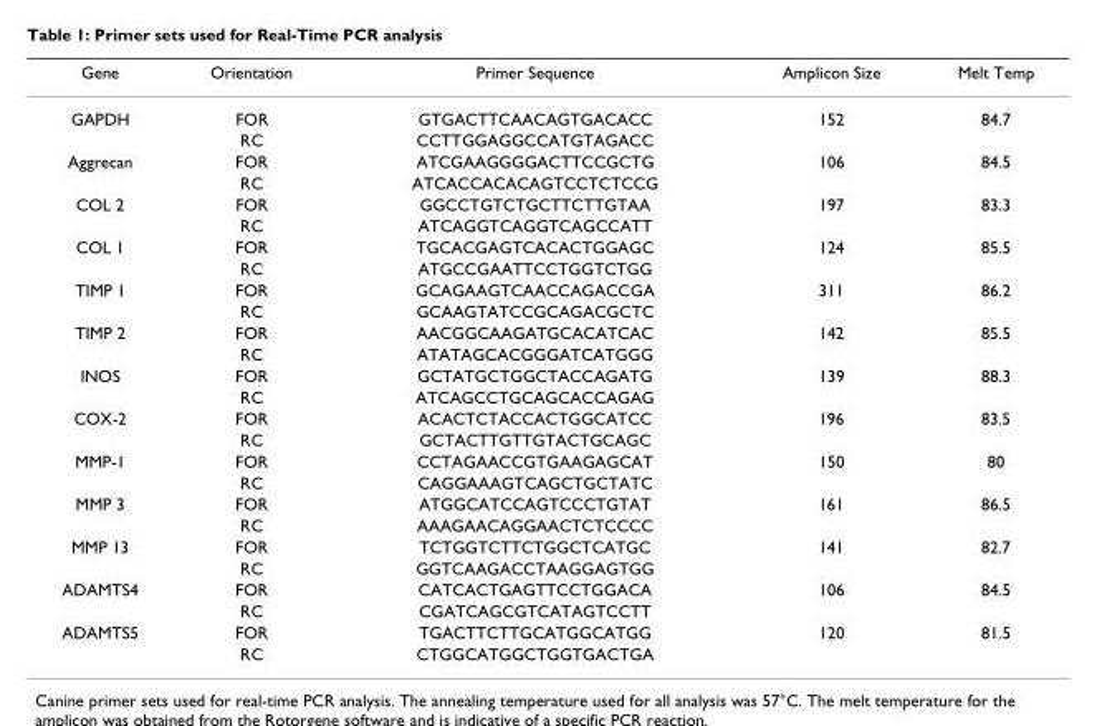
<table><thead><tr><td>Gene</td><td>Orientation</td><td>Primer Sequence</td><td>Amplicon Size</td><td>Melt Temp</td></tr></thead><tbody><tr><td rowspan="2">GAPDH</td><td>FOR</td><td>GTGACTTCAACAGTGACACC</td><td>152</td><td>84.7</td></tr><tr><td>RC</td><td>CCTTGGAGGCCATGTAGACC</td><td></td><td></td></tr><tr><td rowspan="2">Aggrecan</td><td>FOR</td><td>ATCGAAGGGGACTTCCGCTG</td><td>106</td><td>84.5</td></tr><tr><td>RC</td><td>ATCACCACACAGTCCTCTCCG</td><td></td><td></td></tr><tr><td rowspan="2">COL 2</td><td>FOR</td><td>GGCCTGTCTGCTTCTTGTAA</td><td>197</td><td>83.3</td></tr><tr><td>RC</td><td>ATCAGGTCAGGTCAGCCATT</td><td></td><td></td></tr><tr><td rowspan="2">COL 1</td><td>FOR</td><td>TGCACGAGTCACACTGGAGC</td><td>124</td><td>85.5</td></tr><tr><td>RC</td><td>ATGCCGAATTCCTGGTCTGG</td><td></td><td></td></tr><tr><td rowspan="2">TIMP 1</td><td>FOR</td><td>GCAGAAGTCAACCAGACCGA</td><td>311</td><td>86.2</td></tr><tr><td>RC</td><td>GCAAGTATCCGCAGACGCTC</td><td></td><td></td></tr><tr><td rowspan="2">TIMP 2</td><td>FOR</td><td>AACGGCAAGATGCACATCAC</td><td>142</td><td>85.5</td></tr><tr><td>RC</td><td>ATATAGCACGGGATCATGGG</td><td></td><td></td></tr><tr><td rowspan="2">INOS</td><td>FOR</td><td>GCTATGCTGGCTACCAGATG</td><td>139</td><td>88.3</td></tr><tr><td>RC</td><td>ATCAGCCTGCAGCACCAGAG</td><td></td><td></td></tr><tr><td rowspan="2">COX-2</td><td>FOR</td><td>ACACTCTACCACTGGCATCC</td><td>196</td><td>83.5</td></tr><tr><td>RC</td><td>GCTACTTGTTGTACTGCAGC</td><td></td><td></td></tr><tr><td rowspan="2">MMP-1</td><td>FOR</td><td>CCTAGAACCGTGAAGAGCAT</td><td>150</td><td>80</td></tr><tr><td>RC</td><td>CAGGAAAGTCAGCTGCTATC</td><td></td><td></td></tr><tr><td rowspan="2">MMP 3</td><td>FOR</td><td>ATGGCATCCAGTCCCTGTAT</td><td>161</td><td>86.5</td></tr><tr><td>RC</td><td>AAAGAACAGGAACTCTCCCC</td><td></td><td></td></tr><tr><td rowspan="2">MMP 13</td><td>FOR</td><td>TCTGGTCTTCTGGCTCATGC</td><td>141</td><td>82.7</td></tr><tr><td>RC</td><td>GGTCAAGACCTAAGGAGTGG</td><td></td><td></td></tr><tr><td rowspan="2">ADAMTS4</td><td>FOR</td><td>CATCACTGAGTTCCTGGACA</td><td>106</td><td>84.5</td></tr><tr><td>RC</td><td>CGATCAGCGTCATAGTCCTT</td><td></td><td></td></tr><tr><td rowspan="2">ADAMTS5</td><td>FOR</td><td>TGACTTCTTGCATGGCATGG</td><td>120</td><td>81.5</td></tr><tr><td>RC</td><td>CTGGCATGGCTGGTGACTGA</td><td></td><td></td></tr></tbody></table>